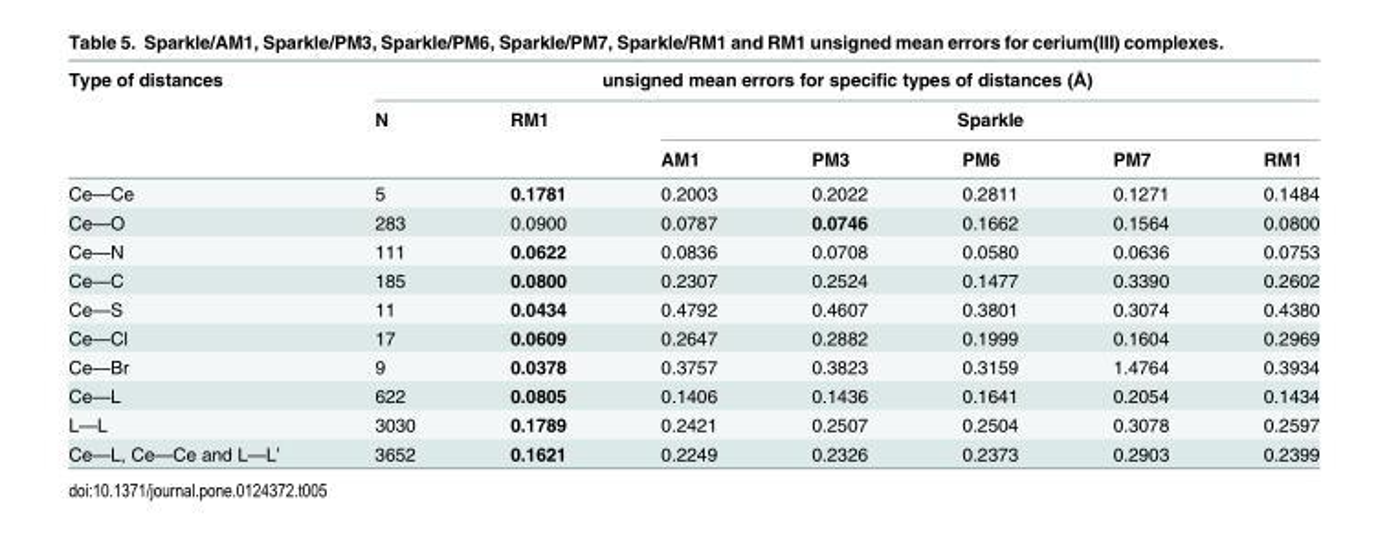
<table><thead><tr><td rowspan="3">Type of distances</td><td colspan="7">unsigned mean errors for specific types of distances (Å)</td></tr><tr><td rowspan="2">N</td><td rowspan="2">RM1</td><td colspan="5">Sparkle</td></tr><tr><td>AM1</td><td>PM3</td><td>PM6</td><td>PM7</td><td>RM1</td></tr></thead><tbody><tr><td>Ce—Ce</td><td>5</td><td>0.1781</td><td>0.2003</td><td>0.2022</td><td>0.2811</td><td>0.1271</td><td>0.1484</td></tr><tr><td>Ce—O</td><td>283</td><td>0.0900</td><td>0.0787</td><td>0.0746</td><td>0.1662</td><td>0.1564</td><td>0.0800</td></tr><tr><td>Ce—N</td><td>111</td><td>0.0622</td><td>0.0836</td><td>0.0708</td><td>0.0580</td><td>0.0636</td><td>0.0753</td></tr><tr><td>Ce—C</td><td>185</td><td>0.0800</td><td>0.2307</td><td>0.2524</td><td>0.1477</td><td>0.3390</td><td>0.2602</td></tr><tr><td>Ce—S</td><td>11</td><td>0.0434</td><td>0.4792</td><td>0.4607</td><td>0.3801</td><td>0.3074</td><td>0.4380</td></tr><tr><td>Ce—Cl</td><td>17</td><td>0.0609</td><td>0.2647</td><td>0.2882</td><td>0.1999</td><td>0.1604</td><td>0.2969</td></tr><tr><td>Ce—Br</td><td>9</td><td>0.0378</td><td>0.3757</td><td>0.3823</td><td>0.3159</td><td>1.4764</td><td>0.3934</td></tr><tr><td>Ce—L</td><td>622</td><td>0.0805</td><td>0.1406</td><td>0.1436</td><td>0.1641</td><td>0.2054</td><td>0.1434</td></tr><tr><td>L—L</td><td>3030</td><td>0.1789</td><td>0.2421</td><td>0.2507</td><td>0.2504</td><td>0.3078</td><td>0.2597</td></tr><tr><td>Ce—L, Ce—Ce and L—L’</td><td>3652</td><td>0.1621</td><td>0.2249</td><td>0.2326</td><td>0.2373</td><td>0.2903</td><td>0.2399</td></tr></tbody></table>